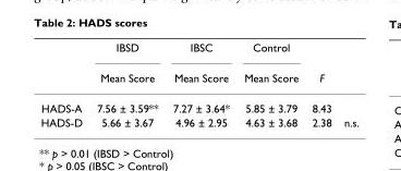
<table><thead><tr><td rowspan="2"></td><td rowspan="2">IBSD Mean Score</td><td rowspan="2">IBSC Mean Score</td><td rowspan="2">Control Mean Score</td><td rowspan="2">F</td><td rowspan="2"></td></tr><tr></tr></thead><tbody><tr><td>HADS-A</td><td>7.56 ± 3.59**</td><td>7.27 ± 3.64*</td><td>5.85 ± 3.79</td><td>8.43</td><td></td></tr><tr><td>HADS-D</td><td>5.66 ± 3.67</td><td>4.96 ± 2.95</td><td>4.63 ± 3.68</td><td>2.38</td><td>n.s.</td></tr></tbody></table>